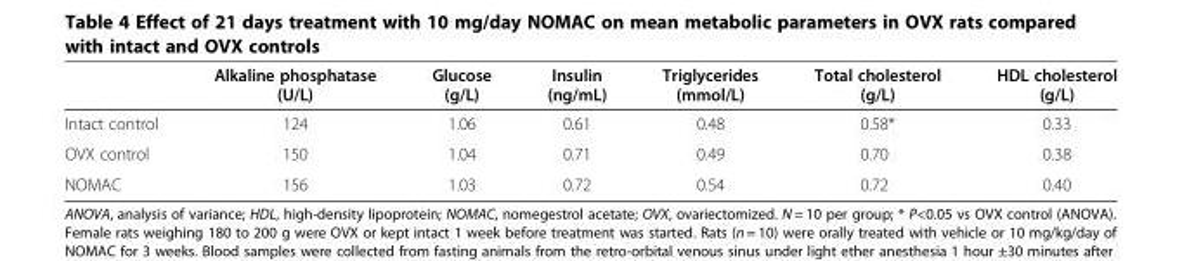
<table><thead><tr><td></td><td>Alkaline phosphatase (U/L)</td><td>Glucose (g/L)</td><td>Insulin (ng/mL)</td><td>Triglycerides (mmol/L)</td><td>Total cholesterol (g/L)</td><td>HDL cholesterol (g/L)</td></tr></thead><tbody><tr><td>Intact control</td><td>124</td><td>1.06</td><td>0.61</td><td>0.48</td><td>0.58*</td><td>0.33</td></tr><tr><td>OVX control</td><td>150</td><td>1.04</td><td>0.71</td><td>0.49</td><td>0.70</td><td>0.38</td></tr><tr><td>NOMAC</td><td>156</td><td>1.03</td><td>0.72</td><td>0.54</td><td>0.72</td><td>0.40</td></tr></tbody></table>